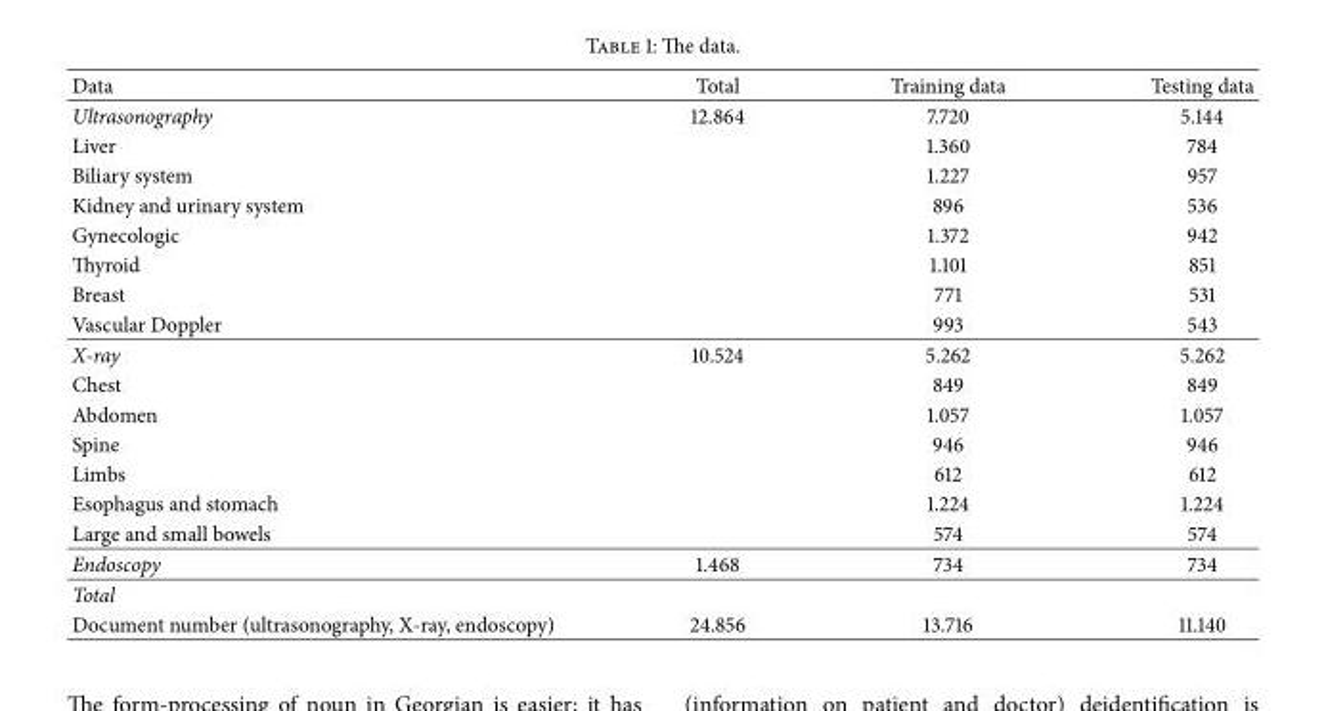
<table><thead><tr><td>Data</td><td>Total</td><td>Training data</td><td>Testing data</td></tr></thead><tbody><tr><td>Ultrasonography</td><td>12.864</td><td>7.720</td><td>5.144</td></tr><tr><td>Liver</td><td></td><td>1.360</td><td>784</td></tr><tr><td>Biliary system</td><td></td><td>1.227</td><td>957</td></tr><tr><td>Kidney and urinary system</td><td></td><td>896</td><td>536</td></tr><tr><td>Gynecologic</td><td></td><td>1.372</td><td>942</td></tr><tr><td>Thyroid</td><td></td><td>1.101</td><td>851</td></tr><tr><td>Breast</td><td></td><td>771</td><td>531</td></tr><tr><td>Vascular Doppler</td><td></td><td>993</td><td>543</td></tr><tr><td>X-ray</td><td>10.524</td><td>5.262</td><td>5.262</td></tr><tr><td>Chest</td><td></td><td>849</td><td>849</td></tr><tr><td>Abdomen</td><td></td><td>1.057</td><td>1.057</td></tr><tr><td>Spine</td><td></td><td>946</td><td>946</td></tr><tr><td>Limbs</td><td></td><td>612</td><td>612</td></tr><tr><td>Esophagus and stomach</td><td></td><td>1.224</td><td>1.224</td></tr><tr><td>Large and small bowels</td><td></td><td>574</td><td>574</td></tr><tr><td>Endoscopy</td><td>1.468</td><td>734</td><td>734</td></tr><tr><td colspan="4">Total</td></tr><tr><td>Document number (ultrasonography, X-ray, endoscopy)</td><td>24.856</td><td>13.716</td><td>11.140</td></tr></tbody></table>